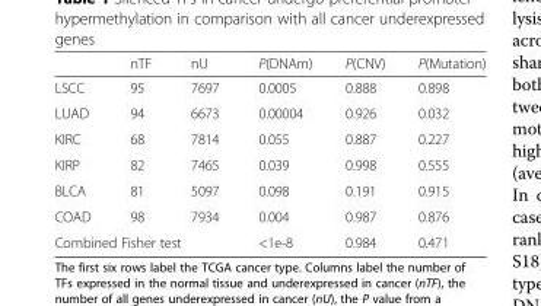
<table><thead><tr><td></td><td>nTF</td><td>nU</td><td>P(DNAm)</td><td>P(CNV)</td><td>P(Mutation)</td></tr></thead><tbody><tr><td>LSCC</td><td>95</td><td>7697</td><td>0.0005</td><td>0.888</td><td>0.898</td></tr><tr><td>LUAD</td><td>94</td><td>6673</td><td>0.00004</td><td>0.926</td><td>0.032</td></tr><tr><td>KIRC</td><td>68</td><td>7814</td><td>0.055</td><td>0.887</td><td>0.227</td></tr><tr><td>KIRP</td><td>82</td><td>7465</td><td>0.039</td><td>0.998</td><td>0.555</td></tr><tr><td>BLCA</td><td>81</td><td>5097</td><td>0.098</td><td>0.191</td><td>0.915</td></tr><tr><td>COAD</td><td>98</td><td>7934</td><td>0.004</td><td>0.987</td><td>0.876</td></tr><tr><td colspan="3">Combined Fisher test</td><td>&lt;1e-8</td><td>0.984</td><td>0.471</td></tr></tbody></table>